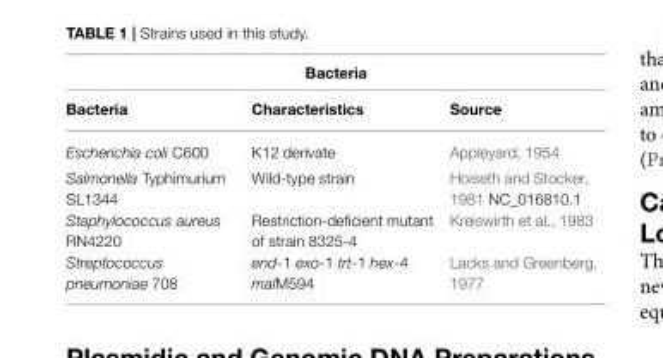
<table><thead><tr><td colspan="3">Bacteria</td></tr><tr><td>Bacteria</td><td>Characteristics</td><td>Source</td></tr></thead><tbody><tr><td>Escherichia coli C600</td><td>K12 derivate</td><td>Appleyard, 1954</td></tr><tr><td>Salmonella Typhimurium SL1344</td><td>Wild-type strain</td><td>Hoiseth and Stocker, 1981 NC_016810.1</td></tr><tr><td>Staphylococcus aureus RN4220</td><td>Restriction-deficient mutant of strain 8325-4</td><td>Kreiswirth et al., 1983</td></tr><tr><td>Streptococcus pneumoniae 708</td><td>end-1 exo-1 trt-1 hex-4 malM594</td><td>Lacks and Greenberg, 1977</td></tr></tbody></table>